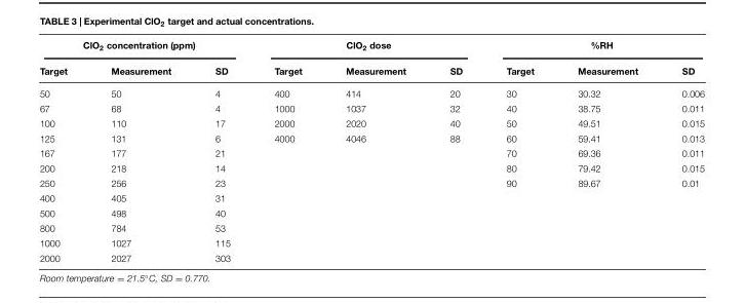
<table><thead><tr><td colspan="3">ClO<sub>2</sub> concentration (ppm)</td><td colspan="3">ClO<sub>2</sub> dose</td><td colspan="3">%RH</td></tr><tr><td>Target</td><td>Measurement</td><td>SD</td><td>Target</td><td>Measurement</td><td>SD</td><td>Target</td><td>Measurement</td><td>SD</td></tr></thead><tbody><tr><td>50</td><td>50</td><td>4</td><td>400</td><td>414</td><td>20</td><td>30</td><td>30.32</td><td>0.006</td></tr><tr><td>67</td><td>68</td><td>4</td><td>1000</td><td>1037</td><td>32</td><td>40</td><td>38.75</td><td>0.011</td></tr><tr><td>100</td><td>110</td><td>17</td><td>2000</td><td>2020</td><td>40</td><td>50</td><td>49.51</td><td>0.015</td></tr><tr><td>125</td><td>131</td><td>6</td><td>4000</td><td>4046</td><td>88</td><td>60</td><td>59.41</td><td>0.013</td></tr><tr><td>167</td><td>177</td><td>21</td><td></td><td></td><td></td><td>70</td><td>69.36</td><td>0.011</td></tr><tr><td>200</td><td>218</td><td>14</td><td></td><td></td><td></td><td>80</td><td>79.42</td><td>0.015</td></tr><tr><td>250</td><td>256</td><td>23</td><td></td><td></td><td></td><td>90</td><td>89.67</td><td>0.01</td></tr><tr><td>400</td><td>405</td><td>31</td><td></td><td></td><td></td><td></td><td></td><td></td></tr><tr><td>500</td><td>498</td><td>40</td><td></td><td></td><td></td><td></td><td></td><td></td></tr><tr><td>800</td><td>784</td><td>53</td><td></td><td></td><td></td><td></td><td></td><td></td></tr><tr><td>1000</td><td>1027</td><td>115</td><td></td><td></td><td></td><td></td><td></td><td></td></tr><tr><td>2000</td><td>2027</td><td>303</td><td></td><td></td><td></td><td></td><td></td><td></td></tr></tbody></table>